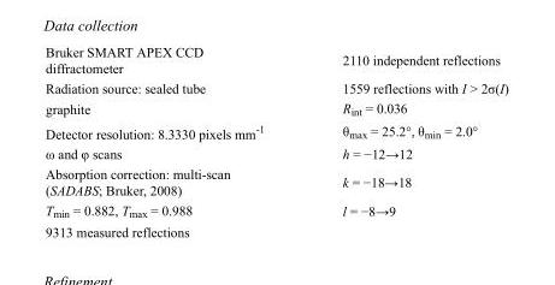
<table><tbody><tr><td>Bruker SMART APEX CCD diffractometer</td><td>2110 independent reflections</td></tr><tr><td>Radiation source: sealed tube</td><td>1559 reflections with I &gt; 2σ(I)</td></tr><tr><td>graphite</td><td>R<sub>int</sub> = 0.036</td></tr><tr><td>Detector resolution: 8.3330 pixels mm<sup>-1</sup></td><td>θ<sub>max</sub> = 25.2°, θ<sub>min</sub> = 2.0°</td></tr><tr><td>ω and φ scans</td><td>h = −12→12</td></tr><tr><td>Absorption correction: multi-scan (SADABS; Bruker, 2008)</td><td>k = −18→18</td></tr><tr><td>T<sub>min</sub> = 0.882, T<sub>max</sub> = 0.988</td><td>l = −8→9</td></tr><tr><td>9313 measured reflections</td><td></td></tr></tbody></table>